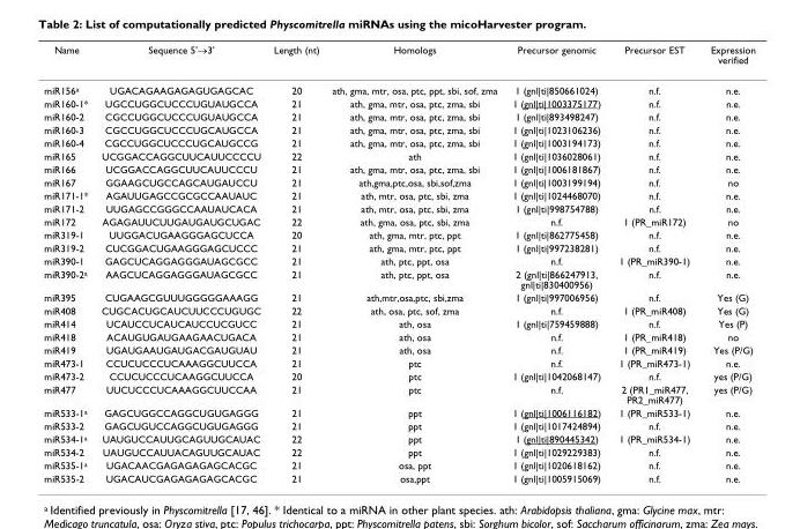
<table><thead><tr><td>Name</td><td>Sequence 5&#x27;→3&#x27;</td><td>Length (nt)</td><td>Homologs</td><td>Precursor genomic</td><td>Precursor EST</td><td>Expression verified</td></tr></thead><tbody><tr><td>miR156a</td><td>UGACAGAAGAGAGUGAGCAC</td><td>20</td><td>ath, gma, mtr, osa, ptc, ppt, sbi, sof, zma</td><td>1 (gnl|ti|850661024)</td><td>n.f.</td><td>n.e.</td></tr><tr><td>miR160-1*</td><td>UGCCUGGCUCCCUGUAUGCCA</td><td>21</td><td>ath, gma, mtr, osa, ptc, zma, sbi</td><td>1 (gnl|ti|1003375177)</td><td>n.f.</td><td>n.e.</td></tr><tr><td>miR160-2</td><td>CGCCUGGCUCCCUGUAUGCCA</td><td>21</td><td>ath, gma, mtr, osa, ptc, zma, sbi</td><td>1 (gnl|ti|893498247)</td><td>n.f.</td><td>n.e.</td></tr><tr><td>miR160-3</td><td>CGCCUGGCUCCCUGCAUGCCA</td><td>21</td><td>ath, gma, mtr, osa, ptc, zma, sbi</td><td>1 (gnl|ti|1023106236)</td><td>n.f.</td><td>n.e.</td></tr><tr><td>miR160-4</td><td>CGCCUGGCUCCCUGCAUGCCG</td><td>21</td><td>ath, gma, mtr, osa, ptc, zma, sbi</td><td>1 (gnl|ti|1003194173)</td><td>n.f.</td><td>n.e.</td></tr><tr><td>miR165</td><td>UCGGACCAGGCUUCAUUCCCCU</td><td>22</td><td>ath</td><td>1 (gnl|ti|1036028061)</td><td>n.f.</td><td>n.e.</td></tr><tr><td>miR166</td><td>UCGGACCAGGCUUCAUUCCCU</td><td>21</td><td>ath, gma, mtr, osa, ptc, zma, sbi</td><td>1 (gnl|ti|1006181867)</td><td>n.f.</td><td>n.e.</td></tr><tr><td>miR167</td><td>GGAAGCUGCCAGCAUGAUCCU</td><td>21</td><td>ath,gma,ptc,osa, sbi,sof,zma</td><td>1 (gnl|ti|1003199194)</td><td>n.f.</td><td>no</td></tr><tr><td>miR171-1*</td><td>AGAUUGAGCCGCGCCAAUAUC</td><td>21</td><td>ath, mtr, osa, ptc, sbi, zma</td><td>1 (gnl|ti|1024468070)</td><td>n.f.</td><td>n.e.</td></tr><tr><td>miR171-2</td><td>UUGAGCCGGGCCAAUAUCACA</td><td>21</td><td>ath, mtr, osa, ptc, sbi, zma</td><td>1 (gnl|ti|998754788)</td><td>n.f.</td><td>n.e.</td></tr><tr><td>miR172</td><td>AGAGAUUCUUGAUGAUGCUGAC</td><td>22</td><td>ath, gma, osa, ptc, sbi, zma</td><td>n.f.</td><td>1 (PR_miR172)</td><td>no</td></tr><tr><td>miR319-1</td><td>UUGGACUGAAGGGAGCUCCA</td><td>20</td><td>ath, gma, mtr, ptc, ppt</td><td>1 (gnl|ti|862775458)</td><td>n.f.</td><td>n.e.</td></tr><tr><td>miR319-2</td><td>CUCGGACUGAAGGGAGCUCCC</td><td>21</td><td>ath, gma, mtr, ptc, ppt</td><td>1 (gnl|ti|997238281)</td><td>n.f.</td><td>n.e.</td></tr><tr><td>miR390-1</td><td>GAGCUCAGGAGGGAUAGCGCC</td><td>21</td><td>ath, ptc, ppt, osa</td><td>n.f.</td><td>1 (PR_miR390-1)</td><td>n.e.</td></tr><tr><td>miR390-2a</td><td>AAGCUCAGGAGGGAUAGCGCC</td><td>21</td><td>ath, ptc, ppt, osa</td><td>2 (gnl|ti|866247913, gnl|ti|830400956)</td><td>n.f.</td><td>n.e.</td></tr><tr><td>miR395</td><td>CUGAAGCGUUUGGGGGAAAGG</td><td>21</td><td>ath,mtr,osa,ptc, sbi,zma</td><td>1 (gnl|ti|997006956)</td><td>n.f.</td><td>Yes (G)</td></tr><tr><td>miR408</td><td>CUGCACUGCAUCUUCCCUGUGC</td><td>22</td><td>ath, osa, ptc, sof, zma</td><td>n.f.</td><td>1 (PR_miR408)</td><td>Yes (G)</td></tr><tr><td>miR414</td><td>UCAUCCUCAUCAUCCUCGUCC</td><td>21</td><td>ath, osa</td><td>1 (gnl|ti|759459888)</td><td>n.f.</td><td>Yes (P)</td></tr><tr><td>miR418</td><td>ACAUGUGAUGAAGAACUGACA</td><td>21</td><td>ath, osa</td><td>n.f.</td><td>1 (PR_miR418)</td><td>no</td></tr><tr><td>miR419</td><td>UGAUGAAUGAUGACGAUGUAU</td><td>21</td><td>ath, osa</td><td>n.f.</td><td>1 (PR_miR419)</td><td>Yes (P/G)</td></tr><tr><td>miR473-1</td><td>CCUCUCCCUCAAAGGCUUCCA</td><td>21</td><td>ptc</td><td>n.f.</td><td>1 (PR_miR473-1)</td><td>n.e.</td></tr><tr><td>miR473-2</td><td>CCUCUCCCUCAAGGCUUCCA</td><td>20</td><td>ptc</td><td>1 (gnl|ti|1042068147)</td><td>n.f.</td><td>yes (P/G)</td></tr><tr><td>miR477</td><td>UUCUCCCUCAAAGGCUUCCAA</td><td>21</td><td>ptc</td><td>n.f.</td><td>2 (PR1_miR477, PR2_miR477)</td><td>yes (P/G)</td></tr><tr><td>miR533-1a</td><td>GAGCUGGCCAGGCUGUGAGGG</td><td>21</td><td>ppt</td><td>1 (gnl|ti|1006116182)</td><td>1 (PR_miR533-1)</td><td>n.e.</td></tr><tr><td>miR533-2</td><td>GAGCUGUCCAGGCUGUGAGGG</td><td>21</td><td>ppt</td><td>1 (gnl|ti|1017424894)</td><td>n.f.</td><td>n.e.</td></tr><tr><td>miR534-1a</td><td>UAUGUCCAUUGCAGUUGCAUAC</td><td>22</td><td>ppt</td><td>1 (gnl|ti|890445342)</td><td>1 (PR_miR534-1)</td><td>n.e.</td></tr><tr><td>miR534-2</td><td>UAUGUCCAUUACAGUUGCAUAC</td><td>22</td><td>ppt</td><td>1 (gnl|ti|1029229383)</td><td>n.f.</td><td>n.e.</td></tr><tr><td>miR535-1a</td><td>UGACAACGAGAGAGAGCACGC</td><td>21</td><td>osa, ppt</td><td>1 (gnl|ti|1020618162)</td><td>n.f.</td><td>n.e.</td></tr><tr><td>miR535-2</td><td>UGACAUCGAGAGAGAGCACGC</td><td>21</td><td>osa,ppt</td><td>1 (gnl|ti|1005915069)</td><td>n.f.</td><td>n.e.</td></tr></tbody></table>